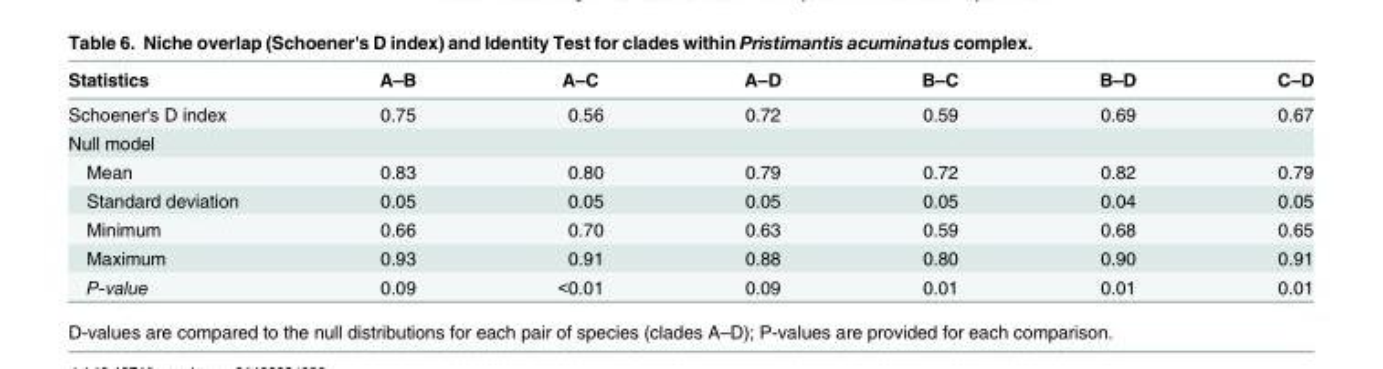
<table><thead><tr><td>Statistics</td><td>A–B</td><td>A–C</td><td>A–D</td><td>B–C</td><td>B–D</td><td>C–D</td></tr></thead><tbody><tr><td>Schoener&#x27;s D index</td><td>0.75</td><td>0.56</td><td>0.72</td><td>0.59</td><td>0.69</td><td>0.67</td></tr><tr><td colspan="7">Null model</td></tr><tr><td>Mean</td><td>0.83</td><td>0.80</td><td>0.79</td><td>0.72</td><td>0.82</td><td>0.79</td></tr><tr><td>Standard deviation</td><td>0.05</td><td>0.05</td><td>0.05</td><td>0.05</td><td>0.04</td><td>0.05</td></tr><tr><td>Minimum</td><td>0.66</td><td>0.70</td><td>0.63</td><td>0.59</td><td>0.68</td><td>0.65</td></tr><tr><td>Maximum</td><td>0.93</td><td>0.91</td><td>0.88</td><td>0.80</td><td>0.90</td><td>0.91</td></tr><tr><td>P-value</td><td>0.09</td><td>&lt;0.01</td><td>0.09</td><td>0.01</td><td>0.01</td><td>0.01</td></tr></tbody></table>